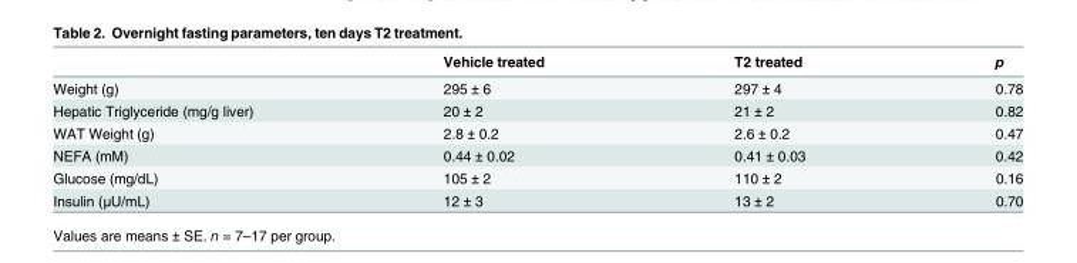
<table><thead><tr><td></td><td>Vehicle treated</td><td>T2 treated</td><td>p</td></tr></thead><tbody><tr><td>Weight (g)</td><td>295 ± 6</td><td>297 ± 4</td><td>0.78</td></tr><tr><td>Hepatic Triglyceride (mg/g liver)</td><td>20 ± 2</td><td>21 ± 2</td><td>0.82</td></tr><tr><td>WAT Weight (g)</td><td>2.8 ± 0.2</td><td>2.6 ± 0.2</td><td>0.47</td></tr><tr><td>NEFA (mM)</td><td>0.44 ± 0.02</td><td>0.41 ± 0.03</td><td>0.42</td></tr><tr><td>Glucose (mg/dL)</td><td>105 ± 2</td><td>110 ± 2</td><td>0.16</td></tr><tr><td>Insulin (μU/mL)</td><td>12 ± 3</td><td>13 ± 2</td><td>0.70</td></tr></tbody></table>